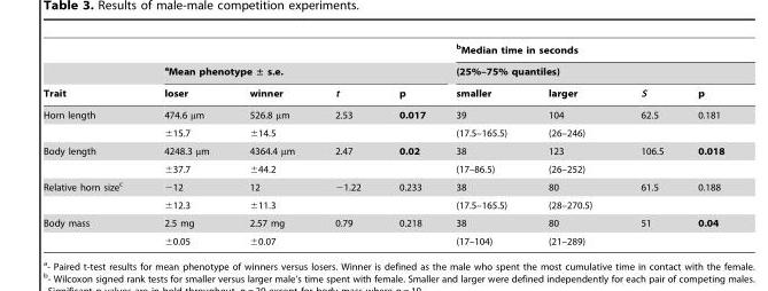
<table><thead><tr><td rowspan="3">Trait</td><td></td><td></td><td></td><td></td><td rowspan="2" colspan="4">bMedian time in seconds (25%–75% quantiles)</td></tr><tr><td colspan="4">aMean phenotype ± s.e.</td></tr><tr><td>loser</td><td>winner</td><td>t</td><td>p</td><td>smaller</td><td>larger</td><td>S</td><td>p</td></tr></thead><tbody><tr><td rowspan="2">Horn length</td><td>474.6 µm</td><td>526.8 µm</td><td>2.53</td><td>0.017</td><td>39</td><td>104</td><td>62.5</td><td>0.181</td></tr><tr><td>±15.7</td><td>±14.5</td><td></td><td></td><td>(17.5–165.5)</td><td>(26–246)</td><td></td><td></td></tr><tr><td rowspan="2">Body length</td><td>4248.3 µm</td><td>4364.4 µm</td><td>2.47</td><td>0.02</td><td>38</td><td>123</td><td>106.5</td><td>0.018</td></tr><tr><td>±37.7</td><td>±44.2</td><td></td><td></td><td>(17–86.5)</td><td>(26–252)</td><td></td><td></td></tr><tr><td rowspan="2">Relative horn size<sup>c</sup></td><td>−12</td><td>12</td><td>−1.22</td><td>0.233</td><td>38</td><td>80</td><td>61.5</td><td>0.188</td></tr><tr><td>±12.3</td><td>±11.3</td><td></td><td></td><td>(17.5–165.5)</td><td>(28–270.5)</td><td></td><td></td></tr><tr><td rowspan="2">Body mass</td><td>2.5 mg</td><td>2.57 mg</td><td>0.79</td><td>0.218</td><td>38</td><td>80</td><td>51</td><td>0.04</td></tr><tr><td>±0.05</td><td>±0.07</td><td></td><td></td><td>(17–104)</td><td>(21–289)</td><td></td><td></td></tr></tbody></table>